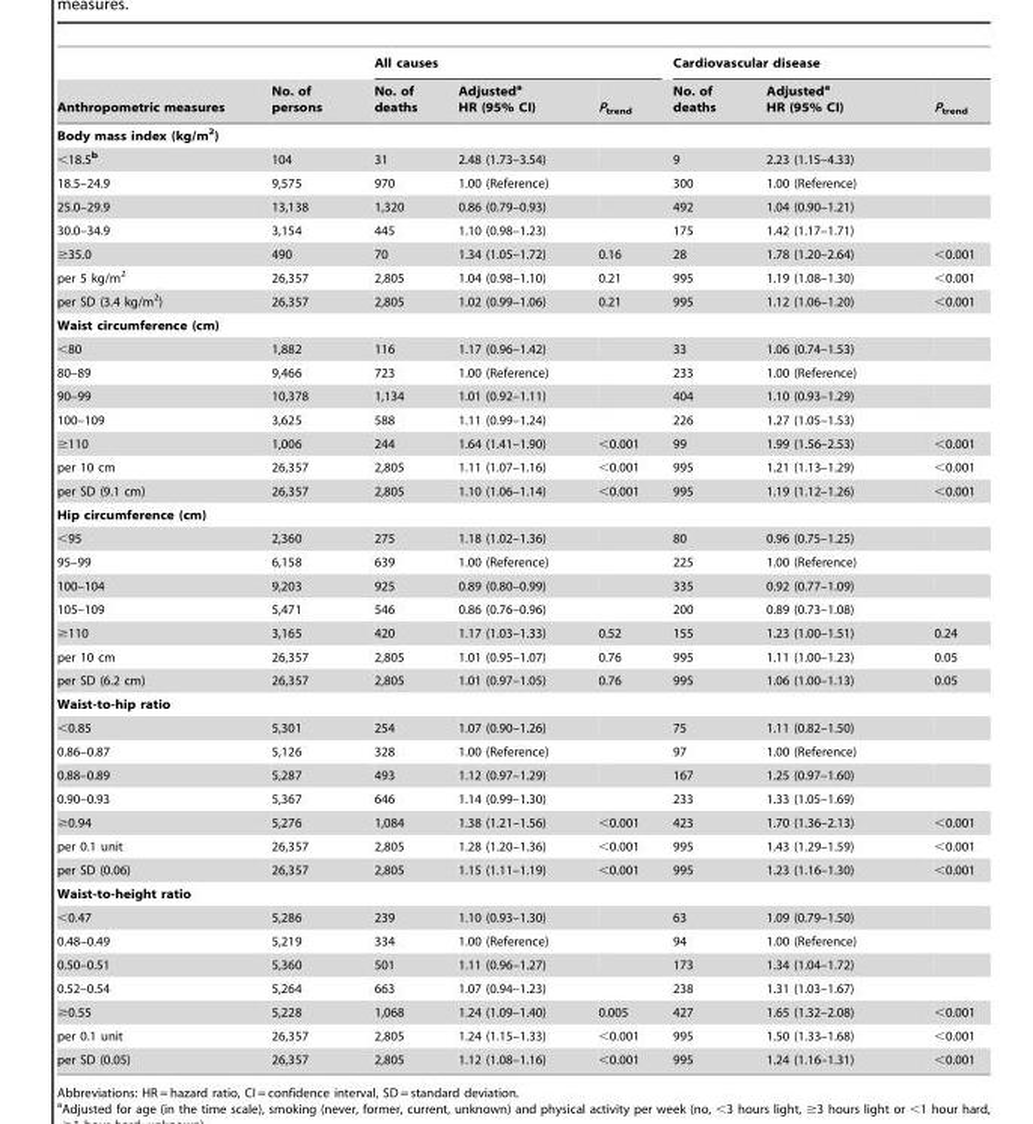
<table><thead><tr><td rowspan="2">Anthropometric measures</td><td rowspan="2">No. of persons</td><td colspan="3">All causes</td><td colspan="3">Cardiovascular disease</td></tr><tr><td>No. of deaths</td><td>Adjusted<sup>a</sup> HR (95% CI)</td><td>P<sub>trend</sub></td><td>No. of deaths</td><td>Adjusted<sup>a</sup> HR (95% CI)</td><td>P<sub>trend</sub></td></tr></thead><tbody><tr><td colspan="8">Body mass index (kg/m<sup>2</sup>)</td></tr><tr><td>&lt;18.5<sup>b</sup></td><td>104</td><td>31</td><td>2.48 (1.73–3.54)</td><td></td><td>9</td><td>2.23 (1.15–4.33)</td><td></td></tr><tr><td>18.5–24.9</td><td>9,575</td><td>970</td><td>1.00 (Reference)</td><td></td><td>300</td><td>1.00 (Reference)</td><td></td></tr><tr><td>25.0–29.9</td><td>13,138</td><td>1,320</td><td>0.86 (0.79–0.93)</td><td></td><td>492</td><td>1.04 (0.90–1.21)</td><td></td></tr><tr><td>30.0–34.9</td><td>3,154</td><td>445</td><td>1.10 (0.98–1.23)</td><td></td><td>175</td><td>1.42 (1.17–1.71)</td><td></td></tr><tr><td>≥35.0</td><td>490</td><td>70</td><td>1.34 (1.05–1.72)</td><td>0.16</td><td>28</td><td>1.78 (1.20–2.64)</td><td>&lt;0.001</td></tr><tr><td>per 5 kg/m<sup>2</sup></td><td>26,357</td><td>2,805</td><td>1.04 (0.98–1.10)</td><td>0.21</td><td>995</td><td>1.19 (1.08–1.30)</td><td>&lt;0.001</td></tr><tr><td>per SD (3.4 kg/m<sup>2</sup>)</td><td>26,357</td><td>2,805</td><td>1.02 (0.99–1.06)</td><td>0.21</td><td>995</td><td>1.12 (1.06–1.20)</td><td>&lt;0.001</td></tr><tr><td colspan="8">Waist circumference (cm)</td></tr><tr><td>&lt;80</td><td>1,882</td><td>116</td><td>1.17 (0.96–1.42)</td><td></td><td>33</td><td>1.06 (0.74–1.53)</td><td></td></tr><tr><td>80–89</td><td>9,466</td><td>723</td><td>1.00 (Reference)</td><td></td><td>233</td><td>1.00 (Reference)</td><td></td></tr><tr><td>90–99</td><td>10,378</td><td>1,134</td><td>1.01 (0.92–1.11)</td><td></td><td>404</td><td>1.10 (0.93–1.29)</td><td></td></tr><tr><td>100–109</td><td>3,625</td><td>588</td><td>1.11 (0.99–1.24)</td><td></td><td>226</td><td>1.27 (1.05–1.53)</td><td></td></tr><tr><td>≥110</td><td>1,006</td><td>244</td><td>1.64 (1.41–1.90)</td><td>&lt;0.001</td><td>99</td><td>1.99 (1.56–2.53)</td><td>&lt;0.001</td></tr><tr><td>per 10 cm</td><td>26,357</td><td>2,805</td><td>1.11 (1.07–1.16)</td><td>&lt;0.001</td><td>995</td><td>1.21 (1.13–1.29)</td><td>&lt;0.001</td></tr><tr><td>per SD (9.1 cm)</td><td>26,357</td><td>2,805</td><td>1.10 (1.06–1.14)</td><td>&lt;0.001</td><td>995</td><td>1.19 (1.12–1.26)</td><td>&lt;0.001</td></tr><tr><td colspan="8">Hip circumference (cm)</td></tr><tr><td>&lt;95</td><td>2,360</td><td>275</td><td>1.18 (1.02–1.36)</td><td></td><td>80</td><td>0.96 (0.75–1.25)</td><td></td></tr><tr><td>95–99</td><td>6,158</td><td>639</td><td>1.00 (Reference)</td><td></td><td>225</td><td>1.00 (Reference)</td><td></td></tr><tr><td>100–104</td><td>9,203</td><td>925</td><td>0.89 (0.80–0.99)</td><td></td><td>335</td><td>0.92 (0.77–1.09)</td><td></td></tr><tr><td>105–109</td><td>5,471</td><td>546</td><td>0.86 (0.76–0.96)</td><td></td><td>200</td><td>0.89 (0.73–1.08)</td><td></td></tr><tr><td>≥110</td><td>3,165</td><td>420</td><td>1.17 (1.03–1.33)</td><td>0.52</td><td>155</td><td>1.23 (1.00–1.51)</td><td>0.24</td></tr><tr><td>per 10 cm</td><td>26,357</td><td>2,805</td><td>1.01 (0.95–1.07)</td><td>0.76</td><td>995</td><td>1.11 (1.00–1.23)</td><td>0.05</td></tr><tr><td>per SD (6.2 cm)</td><td>26,357</td><td>2,805</td><td>1.01 (0.97–1.05)</td><td>0.76</td><td>995</td><td>1.06 (1.00–1.13)</td><td>0.05</td></tr><tr><td colspan="8">Waist-to-hip ratio</td></tr><tr><td>&lt;0.85</td><td>5,301</td><td>254</td><td>1.07 (0.90–1.26)</td><td></td><td>75</td><td>1.11 (0.82–1.50)</td><td></td></tr><tr><td>0.86–0.87</td><td>5,126</td><td>328</td><td>1.00 (Reference)</td><td></td><td>97</td><td>1.00 (Reference)</td><td></td></tr><tr><td>0.88–0.89</td><td>5,287</td><td>493</td><td>1.12 (0.97–1.29)</td><td></td><td>167</td><td>1.25 (0.97–1.60)</td><td></td></tr><tr><td>0.90–0.93</td><td>5,367</td><td>646</td><td>1.14 (0.99–1.30)</td><td></td><td>233</td><td>1.33 (1.05–1.69)</td><td></td></tr><tr><td>≥0.94</td><td>5,276</td><td>1,084</td><td>1.38 (1.21–1.56)</td><td>&lt;0.001</td><td>423</td><td>1.70 (1.36–2.13)</td><td>&lt;0.001</td></tr><tr><td>per 0.1 unit</td><td>26,357</td><td>2,805</td><td>1.28 (1.20–1.36)</td><td>&lt;0.001</td><td>995</td><td>1.43 (1.29–1.59)</td><td>&lt;0.001</td></tr><tr><td>per SD (0.06)</td><td>26,357</td><td>2,805</td><td>1.15 (1.11–1.19)</td><td>&lt;0.001</td><td>995</td><td>1.23 (1.16–1.30)</td><td>&lt;0.001</td></tr><tr><td colspan="8">Waist-to-height ratio</td></tr><tr><td>&lt;0.47</td><td>5,286</td><td>239</td><td>1.10 (0.93–1.30)</td><td></td><td>63</td><td>1.09 (0.79–1.50)</td><td></td></tr><tr><td>0.48–0.49</td><td>5,219</td><td>334</td><td>1.00 (Reference)</td><td></td><td>94</td><td>1.00 (Reference)</td><td></td></tr><tr><td>0.50–0.51</td><td>5,360</td><td>501</td><td>1.11 (0.96–1.27)</td><td></td><td>173</td><td>1.34 (1.04–1.72)</td><td></td></tr><tr><td>0.52–0.54</td><td>5,264</td><td>663</td><td>1.07 (0.94–1.23)</td><td></td><td>238</td><td>1.31 (1.03–1.67)</td><td></td></tr><tr><td>≥0.55</td><td>5,228</td><td>1,068</td><td>1.24 (1.09–1.40)</td><td>0.005</td><td>427</td><td>1.65 (1.32–2.08)</td><td>&lt;0.001</td></tr><tr><td>per 0.1 unit</td><td>26,357</td><td>2,805</td><td>1.24 (1.15–1.33)</td><td>&lt;0.001</td><td>995</td><td>1.50 (1.33–1.68)</td><td>&lt;0.001</td></tr><tr><td>per SD (0.05)</td><td>26,357</td><td>2,805</td><td>1.12 (1.08–1.16)</td><td>&lt;0.001</td><td>995</td><td>1.24 (1.16–1.31)</td><td>&lt;0.001</td></tr></tbody></table>